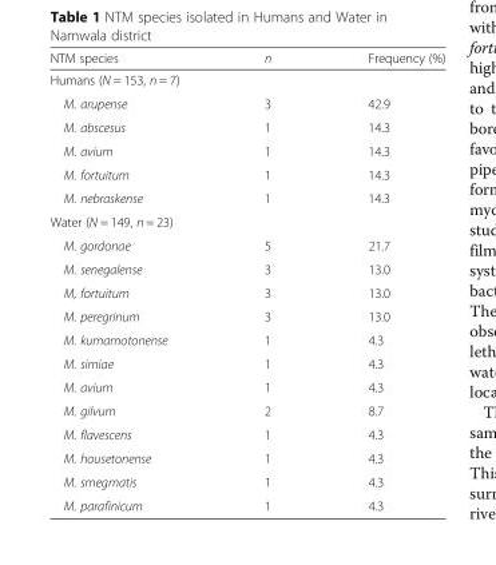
<table><thead><tr><td>NTM species</td><td>n</td><td>Frequency (%)</td></tr></thead><tbody><tr><td colspan="3">Humans (N = 153, n = 7)</td></tr><tr><td>M. arupense</td><td>3</td><td>42.9</td></tr><tr><td>M. abscesus</td><td>1</td><td>14.3</td></tr><tr><td>M. avium</td><td>1</td><td>14.3</td></tr><tr><td>M. fortuitum</td><td>1</td><td>14.3</td></tr><tr><td>M. nebraskense</td><td>1</td><td>14.3</td></tr><tr><td colspan="3">Water (N = 149, n = 23)</td></tr><tr><td>M. gordonae</td><td>5</td><td>21.7</td></tr><tr><td>M. senegalense</td><td>3</td><td>13.0</td></tr><tr><td>M, fortuitum</td><td>3</td><td>13.0</td></tr><tr><td>M. peregrinum</td><td>3</td><td>13.0</td></tr><tr><td>M. kumamotonense</td><td>1</td><td>4.3</td></tr><tr><td>M. simiae</td><td>1</td><td>4.3</td></tr><tr><td>M. avium</td><td>1</td><td>4.3</td></tr><tr><td>M. gilvum</td><td>2</td><td>8.7</td></tr><tr><td>M. flavescens</td><td>1</td><td>4.3</td></tr><tr><td>M. housetonense</td><td>1</td><td>4.3</td></tr><tr><td>M. smegmatis</td><td>1</td><td>4.3</td></tr><tr><td>M. parafinicum</td><td>1</td><td>4.3</td></tr></tbody></table>